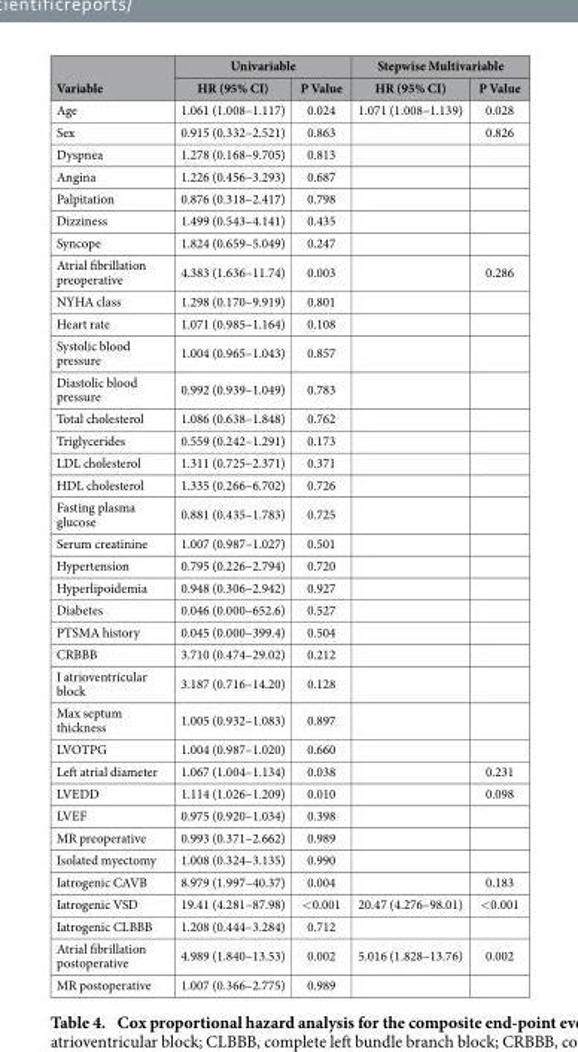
<table><thead><tr><td rowspan="2">Variable</td><td colspan="2">Univariable</td><td colspan="2">Stepwise Multivariable</td></tr><tr><td>HR (95% CI)</td><td>P Value</td><td>HR (95% CI)</td><td>P Value</td></tr></thead><tbody><tr><td>Age</td><td>1.061 (1.008–1.117)</td><td>0.024</td><td>1.071 (1.008–1.139)</td><td>0.028</td></tr><tr><td>Sex</td><td>0.915 (0.332–2.521)</td><td>0.863</td><td></td><td>0.826</td></tr><tr><td>Dyspnea</td><td>1.278 (0.168–9.705)</td><td>0.813</td><td></td><td></td></tr><tr><td>Angina</td><td>1.226 (0.456–3.293)</td><td>0.687</td><td></td><td></td></tr><tr><td>Palpitation</td><td>0.876 (0.318–2.417)</td><td>0.798</td><td></td><td></td></tr><tr><td>Dizziness</td><td>1.499 (0.543–4.141)</td><td>0.435</td><td></td><td></td></tr><tr><td>Syncope</td><td>1.824 (0.659–5.049)</td><td>0.247</td><td></td><td></td></tr><tr><td>Atrial fibrillation preoperative</td><td>4.383 (1.636–11.74)</td><td>0.003</td><td></td><td>0.286</td></tr><tr><td>NYHA class</td><td>1.298 (0.170–9.919)</td><td>0.801</td><td></td><td></td></tr><tr><td>Heart rate</td><td>1.071 (0.985–1.164)</td><td>0.108</td><td></td><td></td></tr><tr><td>Systolic blood pressure</td><td>1.004 (0.965–1.043)</td><td>0.857</td><td></td><td></td></tr><tr><td>Diastolic blood pressure</td><td>0.992 (0.939–1.049)</td><td>0.783</td><td></td><td></td></tr><tr><td>Total cholesterol</td><td>1.086 (0.638–1.848)</td><td>0.762</td><td></td><td></td></tr><tr><td>Triglycerides</td><td>0.559 (0.242–1.291)</td><td>0.173</td><td></td><td></td></tr><tr><td>LDL cholesterol</td><td>1.311 (0.725–2.371)</td><td>0.371</td><td></td><td></td></tr><tr><td>HDL cholesterol</td><td>1.335 (0.266–6.702)</td><td>0.726</td><td></td><td></td></tr><tr><td>Fasting plasma glucose</td><td>0.881 (0.435–1.783)</td><td>0.725</td><td></td><td></td></tr><tr><td>Serum creatinine</td><td>1.007 (0.987–1.027)</td><td>0.501</td><td></td><td></td></tr><tr><td>Hypertension</td><td>0.795 (0.226–2.794)</td><td>0.720</td><td></td><td></td></tr><tr><td>Hyperlipoidemia</td><td>0.948 (0.306–2.942)</td><td>0.927</td><td></td><td></td></tr><tr><td>Diabetes</td><td>0.046 (0.000–652.6)</td><td>0.527</td><td></td><td></td></tr><tr><td>PTSMA history</td><td>0.045 (0.000–399.4)</td><td>0.504</td><td></td><td></td></tr><tr><td>CRBBB</td><td>3.710 (0.474–29.02)</td><td>0.212</td><td></td><td></td></tr><tr><td>I atrioventricular block</td><td>3.187 (0.716–14.20)</td><td>0.128</td><td></td><td></td></tr><tr><td>Max septum thickness</td><td>1.005 (0.932–1.083)</td><td>0.897</td><td></td><td></td></tr><tr><td>LVOTPG</td><td>1.004 (0.987–1.020)</td><td>0.660</td><td></td><td></td></tr><tr><td>Left atrial diameter</td><td>1.067 (1.004–1.134)</td><td>0.038</td><td></td><td>0.231</td></tr><tr><td>LVEDD</td><td>1.114 (1.026–1.209)</td><td>0.010</td><td></td><td>0.098</td></tr><tr><td>LVEF</td><td>0.975 (0.920–1.034)</td><td>0.398</td><td></td><td></td></tr><tr><td>MR preoperative</td><td>0.993 (0.371–2.662)</td><td>0.989</td><td></td><td></td></tr><tr><td>Isolated myectomy</td><td>1.008 (0.324–3.135)</td><td>0.990</td><td></td><td></td></tr><tr><td>Iatrogenic CAVB</td><td>8.979 (1.997–40.37)</td><td>0.004</td><td></td><td>0.183</td></tr><tr><td>Iatrogenic VSD</td><td>19.41 (4.281–87.98)</td><td>&lt; 0.001</td><td>20.47 (4.276–98.01)</td><td>&lt; 0.001</td></tr><tr><td>Iatrogenic CLBBB</td><td>1.208 (0.444–3.284)</td><td>0.712</td><td></td><td></td></tr><tr><td>Atrial fibrillation postoperative</td><td>4.989 (1.840–13.53)</td><td>0.002</td><td>5.016 (1.828–13.76)</td><td>0.002</td></tr><tr><td>MR postoperative</td><td>1.007 (0.366–2.775)</td><td>0.989</td><td></td><td></td></tr></tbody></table>